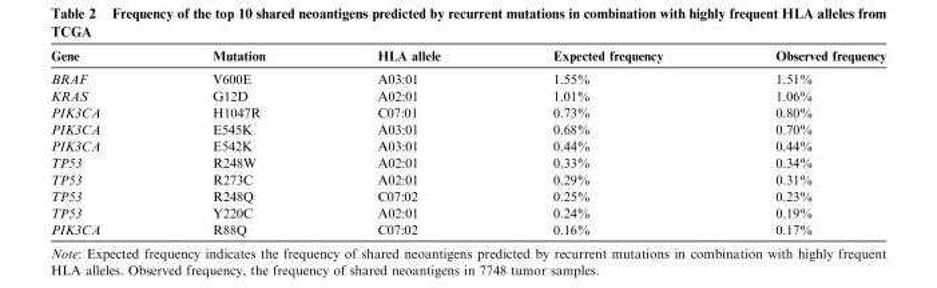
<table><thead><tr><td>Gene</td><td>Mutation</td><td>HLA allele</td><td>Expected frequency</td><td>Observed frequency</td></tr></thead><tbody><tr><td>BRAF</td><td>V600E</td><td>A03:01</td><td>1.55%</td><td>1.51%</td></tr><tr><td>KRAS</td><td>G12D</td><td>A02:01</td><td>1.01%</td><td>1.06%</td></tr><tr><td>PIK3CA</td><td>H1047R</td><td>C07:01</td><td>0.73%</td><td>0.80%</td></tr><tr><td>PIK3CA</td><td>E545K</td><td>A03:01</td><td>0.68%</td><td>0.70%</td></tr><tr><td>PIK3CA</td><td>E542K</td><td>A03:01</td><td>0.44%</td><td>0.44%</td></tr><tr><td>TP53</td><td>R248W</td><td>A02:01</td><td>0.33%</td><td>0.34%</td></tr><tr><td>TP53</td><td>R273C</td><td>A02:01</td><td>0.29%</td><td>0.31%</td></tr><tr><td>TP53</td><td>R248Q</td><td>C07:02</td><td>0.25%</td><td>0.23%</td></tr><tr><td>TP53</td><td>Y220C</td><td>A02:01</td><td>0.24%</td><td>0.19%</td></tr><tr><td>PIK3CA</td><td>R88Q</td><td>C07:02</td><td>0.16%</td><td>0.17%</td></tr></tbody></table>